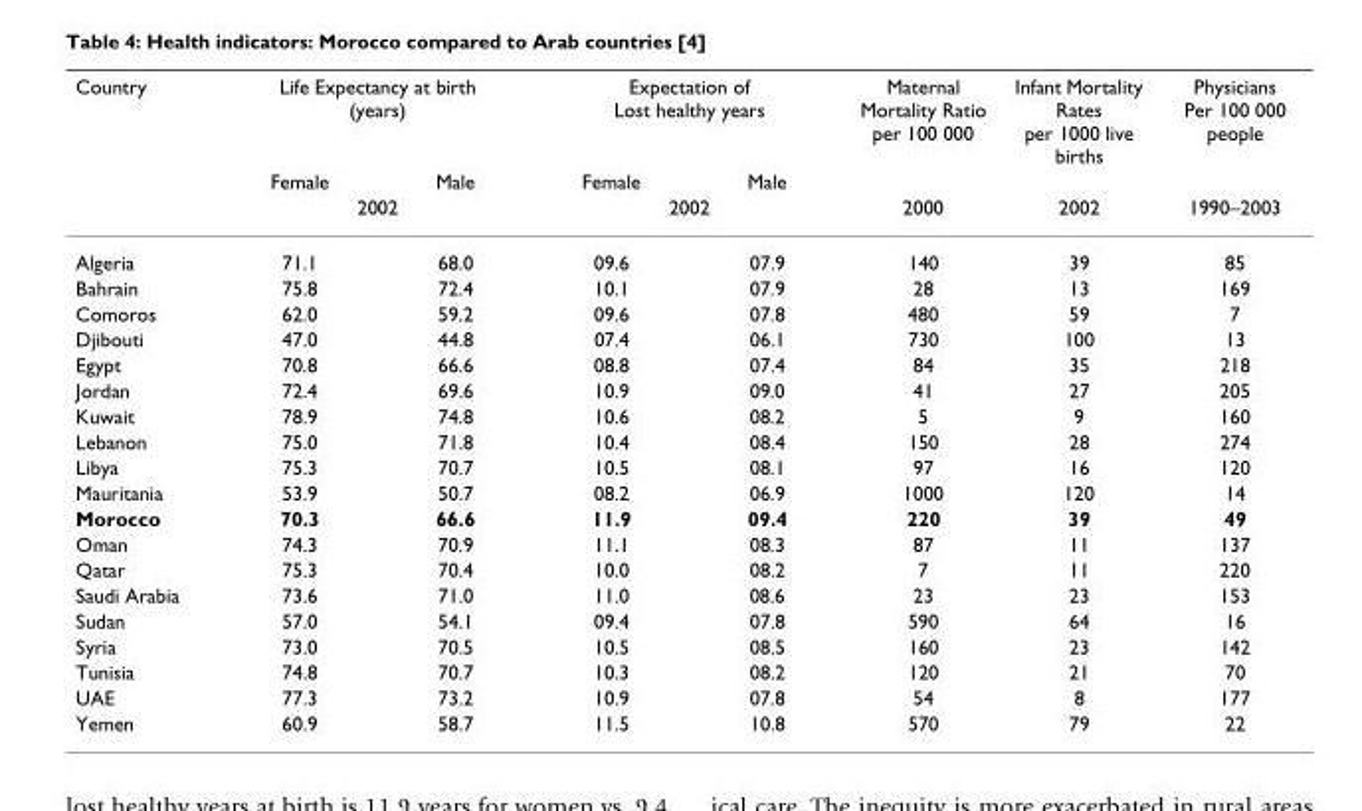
<table><thead><tr><td rowspan="3">Country</td><td colspan="2">Life Expectancy at birth (years)</td><td colspan="2">Expectation of Lost healthy years</td><td rowspan="3">Maternal Mortality Ratio per 100 000 2000</td><td rowspan="3">Infant Mortality Rates per 1000 live births 2002</td><td rowspan="3">Physicians Per 100 000 people 1990–2003</td></tr><tr><td>Female</td><td>Male</td><td>Female</td><td>Male</td></tr><tr><td colspan="2">2002</td><td colspan="2">2002</td></tr></thead><tbody><tr><td>Algeria</td><td>71.1</td><td>68.0</td><td>09.6</td><td>07.9</td><td>140</td><td>39</td><td>85</td></tr><tr><td>Bahrain</td><td>75.8</td><td>72.4</td><td>10.1</td><td>07.9</td><td>28</td><td>13</td><td>169</td></tr><tr><td>Comoros</td><td>62.0</td><td>59.2</td><td>09.6</td><td>07.8</td><td>480</td><td>59</td><td>7</td></tr><tr><td>Djibouti</td><td>47.0</td><td>44.8</td><td>07.4</td><td>06.1</td><td>730</td><td>100</td><td>13</td></tr><tr><td>Egypt</td><td>70.8</td><td>66.6</td><td>08.8</td><td>07.4</td><td>84</td><td>35</td><td>218</td></tr><tr><td>Jordan</td><td>72.4</td><td>69.6</td><td>10.9</td><td>09.0</td><td>41</td><td>27</td><td>205</td></tr><tr><td>Kuwait</td><td>78.9</td><td>74.8</td><td>10.6</td><td>08.2</td><td>5</td><td>9</td><td>160</td></tr><tr><td>Lebanon</td><td>75.0</td><td>71.8</td><td>10.4</td><td>08.4</td><td>150</td><td>28</td><td>274</td></tr><tr><td>Libya</td><td>75.3</td><td>70.7</td><td>10.5</td><td>08.1</td><td>97</td><td>16</td><td>120</td></tr><tr><td>Mauritania</td><td>53.9</td><td>50.7</td><td>08.2</td><td>06.9</td><td>1000</td><td>120</td><td>14</td></tr><tr><td>Morocco</td><td>70.3</td><td>66.6</td><td>11.9</td><td>09.4</td><td>220</td><td>39</td><td>49</td></tr><tr><td>Oman</td><td>74.3</td><td>70.9</td><td>11.1</td><td>08.3</td><td>87</td><td>11</td><td>137</td></tr><tr><td>Qatar</td><td>75.3</td><td>70.4</td><td>10.0</td><td>08.2</td><td>7</td><td>11</td><td>220</td></tr><tr><td>Saudi Arabia</td><td>73.6</td><td>71.0</td><td>11.0</td><td>08.6</td><td>23</td><td>23</td><td>153</td></tr><tr><td>Sudan</td><td>57.0</td><td>54.1</td><td>09.4</td><td>07.8</td><td>590</td><td>64</td><td>16</td></tr><tr><td>Syria</td><td>73.0</td><td>70.5</td><td>10.5</td><td>08.5</td><td>160</td><td>23</td><td>142</td></tr><tr><td>Tunisia</td><td>74.8</td><td>70.7</td><td>10.3</td><td>08.2</td><td>120</td><td>21</td><td>70</td></tr><tr><td>UAE</td><td>77.3</td><td>73.2</td><td>10.9</td><td>07.8</td><td>54</td><td>8</td><td>177</td></tr><tr><td>Yemen</td><td>60.9</td><td>58.7</td><td>11.5</td><td>10.8</td><td>570</td><td>79</td><td>22</td></tr></tbody></table>